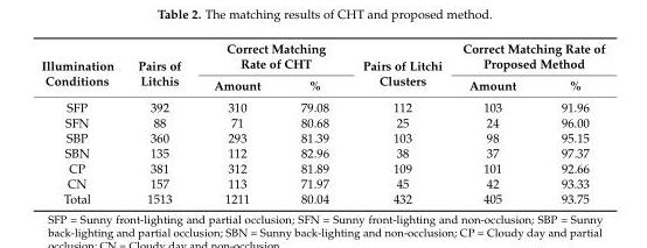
<table><thead><tr><td rowspan="2">Illumination Conditions</td><td rowspan="2">Pairs of Litchis</td><td colspan="2">Correct Matching Rate of CHT</td><td rowspan="2">Pairs of Litchi Clusters</td><td colspan="2">Correct Matching Rate of Proposed Method</td></tr><tr><td>Amount</td><td>%</td><td>Amount</td><td>%</td></tr></thead><tbody><tr><td>SFP</td><td>392</td><td>310</td><td>79.08</td><td>112</td><td>103</td><td>91.96</td></tr><tr><td>SFN</td><td>88</td><td>71</td><td>80.68</td><td>25</td><td>24</td><td>96.00</td></tr><tr><td>SBP</td><td>360</td><td>293</td><td>81.39</td><td>103</td><td>98</td><td>95.15</td></tr><tr><td>SBN</td><td>135</td><td>112</td><td>82.96</td><td>38</td><td>37</td><td>97.37</td></tr><tr><td>CP</td><td>381</td><td>312</td><td>81.89</td><td>109</td><td>101</td><td>92.66</td></tr><tr><td>CN</td><td>157</td><td>113</td><td>71.97</td><td>45</td><td>42</td><td>93.33</td></tr><tr><td>Total</td><td>1513</td><td>1211</td><td>80.04</td><td>432</td><td>405</td><td>93.75</td></tr></tbody></table>